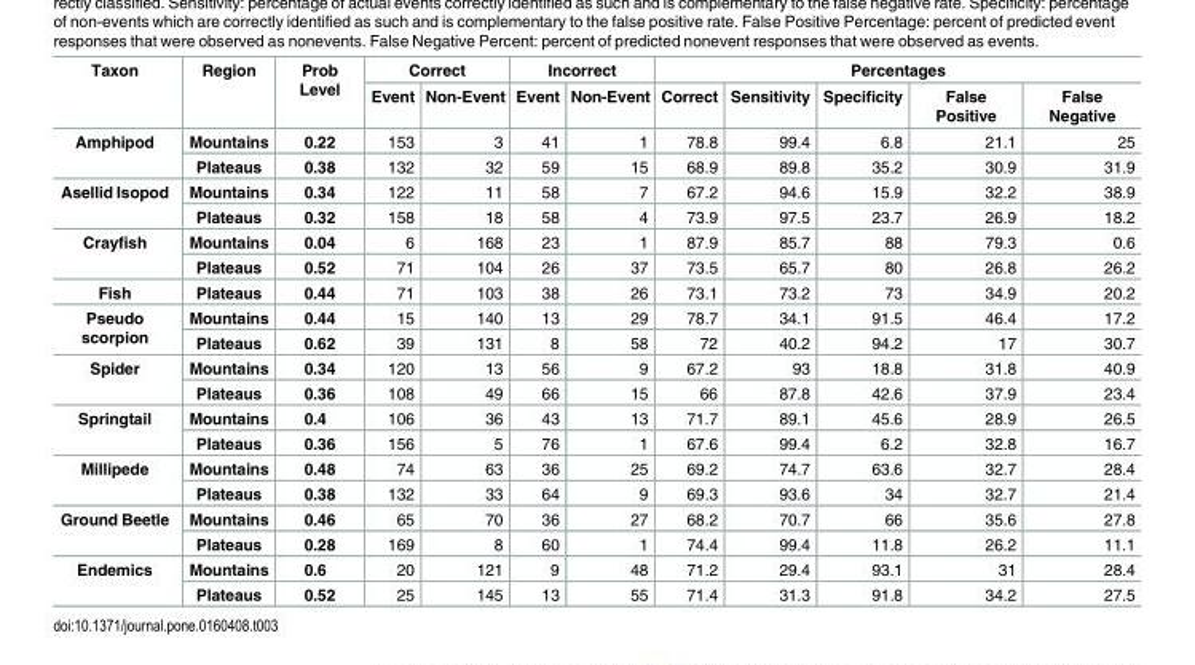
<table><thead><tr><td rowspan="2">Taxon</td><td rowspan="2">Region</td><td rowspan="2">Prob Level</td><td colspan="2">Correct</td><td colspan="2">Incorrect</td><td colspan="5">Percentages</td></tr><tr><td>Event</td><td>Non-Event</td><td>Event</td><td>Non-Event</td><td>Correct</td><td>Sensitivity</td><td>Specificity</td><td>False Positive</td><td>False Negative</td></tr></thead><tbody><tr><td rowspan="2">Amphipod</td><td>Mountains</td><td>0.22</td><td>153</td><td>3</td><td>41</td><td>1</td><td>78.8</td><td>99.4</td><td>6.8</td><td>21.1</td><td>25</td></tr><tr><td>Plateaus</td><td>0.38</td><td>132</td><td>32</td><td>59</td><td>15</td><td>68.9</td><td>89.8</td><td>35.2</td><td>30.9</td><td>31.9</td></tr><tr><td rowspan="2">Asellid Isopod</td><td>Mountains</td><td>0.34</td><td>122</td><td>11</td><td>58</td><td>7</td><td>67.2</td><td>94.6</td><td>15.9</td><td>32.2</td><td>38.9</td></tr><tr><td>Plateaus</td><td>0.32</td><td>158</td><td>18</td><td>58</td><td>4</td><td>73.9</td><td>97.5</td><td>23.7</td><td>26.9</td><td>18.2</td></tr><tr><td rowspan="2">Crayfish</td><td>Mountains</td><td>0.04</td><td>6</td><td>168</td><td>23</td><td>1</td><td>87.9</td><td>85.7</td><td>88</td><td>79.3</td><td>0.6</td></tr><tr><td>Plateaus</td><td>0.52</td><td>71</td><td>104</td><td>26</td><td>37</td><td>73.5</td><td>65.7</td><td>80</td><td>26.8</td><td>26.2</td></tr><tr><td>Fish</td><td>Plateaus</td><td>0.44</td><td>71</td><td>103</td><td>38</td><td>26</td><td>73.1</td><td>73.2</td><td>73</td><td>34.9</td><td>20.2</td></tr><tr><td rowspan="2">Pseudo scorpion</td><td>Mountains</td><td>0.44</td><td>15</td><td>140</td><td>13</td><td>29</td><td>78.7</td><td>34.1</td><td>91.5</td><td>46.4</td><td>17.2</td></tr><tr><td>Plateaus</td><td>0.62</td><td>39</td><td>131</td><td>8</td><td>58</td><td>72</td><td>40.2</td><td>94.2</td><td>17</td><td>30.7</td></tr><tr><td rowspan="2">Spider</td><td>Mountains</td><td>0.34</td><td>120</td><td>13</td><td>56</td><td>9</td><td>67.2</td><td>93</td><td>18.8</td><td>31.8</td><td>40.9</td></tr><tr><td>Plateaus</td><td>0.36</td><td>108</td><td>49</td><td>66</td><td>15</td><td>66</td><td>87.8</td><td>42.6</td><td>37.9</td><td>23.4</td></tr><tr><td rowspan="2">Springtail</td><td>Mountains</td><td>0.4</td><td>106</td><td>36</td><td>43</td><td>13</td><td>71.7</td><td>89.1</td><td>45.6</td><td>28.9</td><td>26.5</td></tr><tr><td>Plateaus</td><td>0.36</td><td>156</td><td>5</td><td>76</td><td>1</td><td>67.6</td><td>99.4</td><td>6.2</td><td>32.8</td><td>16.7</td></tr><tr><td rowspan="2">Millipede</td><td>Mountains</td><td>0.48</td><td>74</td><td>63</td><td>36</td><td>25</td><td>69.2</td><td>74.7</td><td>63.6</td><td>32.7</td><td>28.4</td></tr><tr><td>Plateaus</td><td>0.38</td><td>132</td><td>33</td><td>64</td><td>9</td><td>69.3</td><td>93.6</td><td>34</td><td>32.7</td><td>21.4</td></tr><tr><td rowspan="2">Ground Beetle</td><td>Mountains</td><td>0.46</td><td>65</td><td>70</td><td>36</td><td>27</td><td>68.2</td><td>70.7</td><td>66</td><td>35.6</td><td>27.8</td></tr><tr><td>Plateaus</td><td>0.28</td><td>169</td><td>8</td><td>60</td><td>1</td><td>74.4</td><td>99.4</td><td>11.8</td><td>26.2</td><td>11.1</td></tr><tr><td rowspan="2">Endemics</td><td>Mountains</td><td>0.6</td><td>20</td><td>121</td><td>9</td><td>48</td><td>71.2</td><td>29.4</td><td>93.1</td><td>31</td><td>28.4</td></tr><tr><td>Plateaus</td><td>0.52</td><td>25</td><td>145</td><td>13</td><td>55</td><td>71.4</td><td>31.3</td><td>91.8</td><td>34.2</td><td>27.5</td></tr></tbody></table>